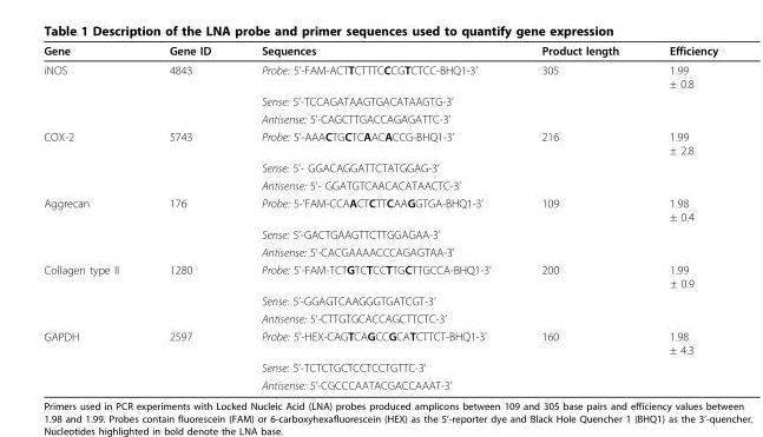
<table><thead><tr><td>Gene</td><td>Gene ID</td><td>Sequences</td><td>Product length</td><td>Efficiency</td></tr></thead><tbody><tr><td rowspan="3">iNOS</td><td>4843</td><td>Probe: 5’-FAM-ACTTCTTTCCCGTCTCC-BHQ1-3’</td><td>305</td><td>1.99 ± 0.8</td></tr><tr><td></td><td>Sense: 5’-TCCAGATAAGTGACATAAGTG-3’</td><td></td><td></td></tr><tr><td></td><td>Antisense: 5’-CAGCTTGACCAGAGATTC-3’</td><td></td><td></td></tr><tr><td rowspan="3">COX-2</td><td>5743</td><td>Probe: 5’-AAACTGCTCAACACCG-BHQ1-3’</td><td>216</td><td>1.99 ± 2.8</td></tr><tr><td></td><td>Sense: 5’- GGACAGGATTCTATGGAG-3’</td><td></td><td></td></tr><tr><td></td><td>Antisense: 5’- GGATGTCAACACATAACTC-3’</td><td></td><td></td></tr><tr><td rowspan="3">Aggrecan</td><td>176</td><td>Probe: 5-’FAM-CCAACTCTTCAAGGTGA-BHQ1-3’</td><td>109</td><td>1.98 ± 0.4</td></tr><tr><td></td><td>Sense: 5’-GACTGAAGTTCTTGGAGAA-3’</td><td></td><td></td></tr><tr><td></td><td>Antisense: 5’-CACGAAAACCCAGAGTAA-3’</td><td></td><td></td></tr><tr><td rowspan="3">Collagen type II</td><td>1280</td><td>Probe: 5’-FAM-TCTGTCTCCTTGCTTGCCA-BHQ1-3’</td><td>200</td><td>1.99 ± 0.9</td></tr><tr><td></td><td>Sense: 5’-GGAGTCAAGGGTGATCGT-3’</td><td></td><td></td></tr><tr><td></td><td>Antisense: 5’-CTTGTGCACCAGCTTCTC-3’</td><td></td><td></td></tr><tr><td rowspan="3">GAPDH</td><td>2597</td><td>Probe: 5’-HEX-CAGTCAGCCGCATCTTCT-BHQ1-3’</td><td>160</td><td>1.98 ± 4.3</td></tr><tr><td></td><td>Sense: 5’-TCTCTGCTCCTCCTGTTC-3’</td><td></td><td></td></tr><tr><td></td><td>Antisense: 5’-CGCCCAATACGACCAAAT-3’</td><td></td><td></td></tr></tbody></table>